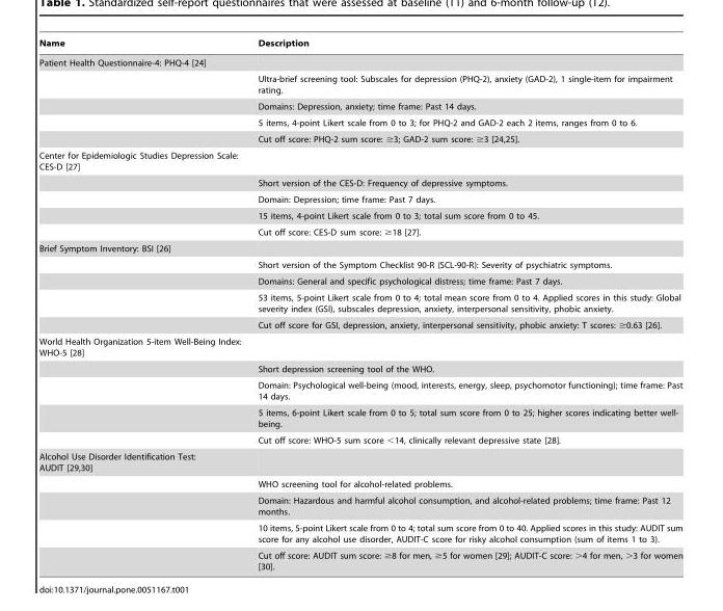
<table><thead><tr><td>Name</td><td>Description</td></tr></thead><tbody><tr><td colspan="2">Patient Health Questionnaire-4: PHQ-4 [24]</td></tr><tr><td></td><td>Ultra-brief screening tool: Subscales for depression (PHQ-2), anxiety (GAD-2), 1 single-item for impairment rating.</td></tr><tr><td></td><td>Domains: Depression, anxiety; time frame: Past 14 days.</td></tr><tr><td></td><td>5 items, 4-point Likert scale from 0 to 3; for PHQ-2 and GAD-2 each 2 items, ranges from 0 to 6.</td></tr><tr><td></td><td>Cut off score: PHQ-2 sum score: $3; GAD-2 sum score: $3 [24,25].</td></tr><tr><td colspan="2">Center for Epidemiologic Studies Depression Scale: CES-D [27]</td></tr><tr><td></td><td>Short version of the CES-D: Frequency of depressive symptoms.</td></tr><tr><td></td><td>Domain: Depression; time frame: Past 7 days.</td></tr><tr><td></td><td>15 items, 4-point Likert scale from 0 to 3; total sum score from 0 to 45.</td></tr><tr><td></td><td>Cut off score: CES-D sum score: ≥18 [27].</td></tr><tr><td colspan="2">Brief Symptom Inventory: BSI [26]</td></tr><tr><td></td><td>Short version of the Symptom Checklist 90-R (SCL-90-R): Severity of psychiatric symptoms.</td></tr><tr><td></td><td>Domains: General and specific psychological distress; time frame: Past 7 days.</td></tr><tr><td></td><td>53 items, 5-point Likert scale from 0 to 4; total mean score from 0 to 4. Applied scores in this study: Global severity index (GSI), subscales depression, anxiety, interpersonal sensitivity, phobic anxiety.</td></tr><tr><td></td><td>Cut off score for GSI, depression, anxiety, interpersonal sensitivity, phobic anxiety: T scores: ≥0.63 [26].</td></tr><tr><td colspan="2">World Health Organization 5-item Well-Being Index: WHO-5 [28]</td></tr><tr><td></td><td>Short depression screening tool of the WHO.</td></tr><tr><td></td><td>Domain: Psychological well-being (mood, interests, energy, sleep, psychomotor functioning); time frame: Past 14 days.</td></tr><tr><td></td><td>5 items, 6-point Likert scale from 0 to 5; total sum score from 0 to 25; higher scores indicating better well- being.</td></tr><tr><td></td><td>Cut off score: WHO-5 sum score &lt;14, clinically relevant depressive state [28].</td></tr><tr><td colspan="2">Alcohol Use Disorder Identification Test: AUDIT [29,30]</td></tr><tr><td></td><td>WHO screening tool for alcohol-related problems.</td></tr><tr><td></td><td>Domain: Hazardous and harmful alcohol consumption, and alcohol-related problems; time frame: Past 12 months.</td></tr><tr><td></td><td>10 items, 5-point Likert scale from 0 to 4; total sum score from 0 to 40. Applied scores in this study: AUDIT sum score for any alcohol use disorder, AUDIT-C score for risky alcohol consumption (sum of items 1 to 3).</td></tr><tr><td></td><td>Cut off score: AUDIT sum score: ≥8 for men, ≥5 for women [29]; AUDIT-C score: &gt;4 for men, &gt;3 for women [30].</td></tr></tbody></table>